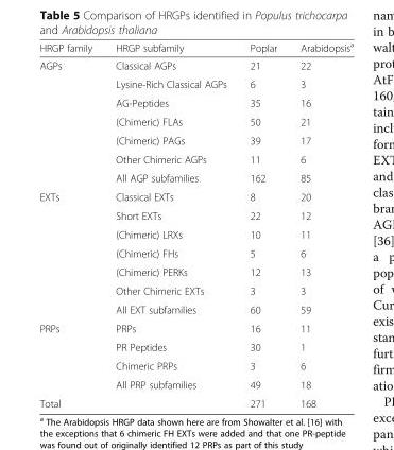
<table><thead><tr><td>HRGP family</td><td>HRGP subfamily</td><td>Poplar</td><td>Arabidopsis<sup>a</sup></td></tr></thead><tbody><tr><td rowspan="7">AGPs</td><td>Classical AGPs</td><td>21</td><td>22</td></tr><tr><td>Lysine-Rich Classical AGPs</td><td>6</td><td>3</td></tr><tr><td>AG-Peptides</td><td>35</td><td>16</td></tr><tr><td>(Chimeric) FLAs</td><td>50</td><td>21</td></tr><tr><td>(Chimeric) PAGs</td><td>39</td><td>17</td></tr><tr><td>Other Chimeric AGPs</td><td>11</td><td>6</td></tr><tr><td>All AGP subfamilies</td><td>162</td><td>85</td></tr><tr><td rowspan="7">EXTs</td><td>Classical EXTs</td><td>8</td><td>20</td></tr><tr><td>Short EXTs</td><td>22</td><td>12</td></tr><tr><td>(Chimeric) LRXs</td><td>10</td><td>11</td></tr><tr><td>(Chimeric) FHs</td><td>5</td><td>6</td></tr><tr><td>(Chimeric) PERKs</td><td>12</td><td>13</td></tr><tr><td>Other Chimeric EXTs</td><td>3</td><td>3</td></tr><tr><td>All EXT subfamilies</td><td>60</td><td>59</td></tr><tr><td rowspan="4">PRPs</td><td>PRPs</td><td>16</td><td>11</td></tr><tr><td>PR Peptides</td><td>30</td><td>1</td></tr><tr><td>Chimeric PRPs</td><td>3</td><td>6</td></tr><tr><td>All PRP subfamilies</td><td>49</td><td>18</td></tr><tr><td>Total</td><td></td><td>271</td><td>168</td></tr></tbody></table>